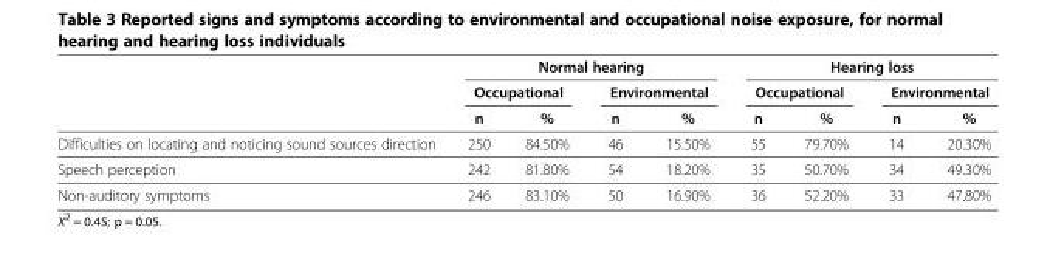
<table><thead><tr><td rowspan="3"></td><td colspan="4">Normal hearing</td><td colspan="4">Hearing loss</td></tr><tr><td colspan="2">Occupational</td><td colspan="2">Environmental</td><td colspan="2">Occupational</td><td colspan="2">Environmental</td></tr><tr><td>n</td><td>%</td><td>n</td><td>%</td><td>n</td><td>%</td><td>n</td><td>%</td></tr></thead><tbody><tr><td>Difficulties on locating and noticing sound sources direction</td><td>250</td><td>84.50%</td><td>46</td><td>15.50%</td><td>55</td><td>79.70%</td><td>14</td><td>20.30%</td></tr><tr><td>Speech perception</td><td>242</td><td>81.80%</td><td>54</td><td>18.20%</td><td>35</td><td>50.70%</td><td>34</td><td>49.30%</td></tr><tr><td>Non-auditory symptoms</td><td>246</td><td>83.10%</td><td>50</td><td>16.90%</td><td>36</td><td>52.20%</td><td>33</td><td>47.80%</td></tr></tbody></table>